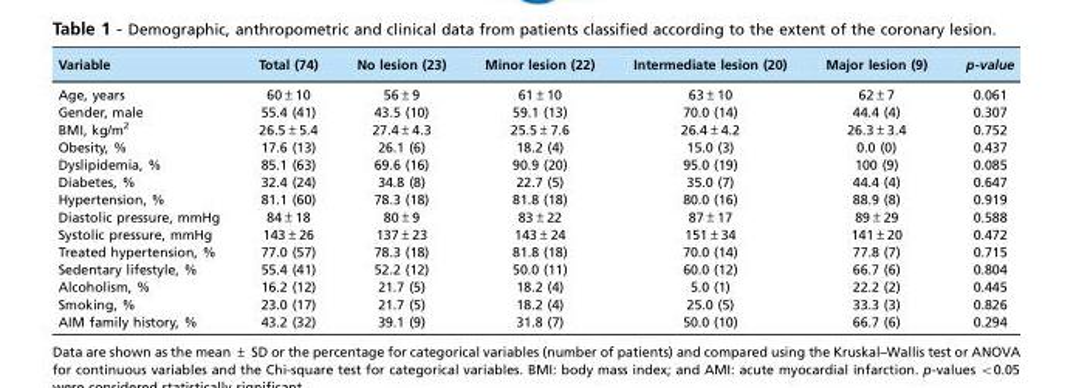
<table><thead><tr><td>Variable</td><td>Total (74)</td><td>No lesion (23)</td><td>Minor lesion (22)</td><td>Intermediate lesion (20)</td><td>Major lesion (9)</td><td>p-value</td></tr></thead><tbody><tr><td>Age, years</td><td>60±10</td><td>56±9</td><td>61±10</td><td>63±10</td><td>62±7</td><td>0.061</td></tr><tr><td>Gender, male</td><td>55.4 (41)</td><td>43.5 (10)</td><td>59.1 (13)</td><td>70.0 (14)</td><td>44.4 (4)</td><td>0.307</td></tr><tr><td>BMI, kg/m<sup>2</sup></td><td>26.5±5.4</td><td>27.4±4.3</td><td>25.5±7.6</td><td>26.4±4.2</td><td>26.3±3.4</td><td>0.752</td></tr><tr><td>Obesity, %</td><td>17.6 (13)</td><td>26.1 (6)</td><td>18.2 (4)</td><td>15.0 (3)</td><td>0.0 (0)</td><td>0.437</td></tr><tr><td>Dyslipidemia, %</td><td>85.1 (63)</td><td>69.6 (16)</td><td>90.9 (20)</td><td>95.0 (19)</td><td>100 (9)</td><td>0.085</td></tr><tr><td>Diabetes, %</td><td>32.4 (24)</td><td>34.8 (8)</td><td>22.7 (5)</td><td>35.0 (7)</td><td>44.4 (4)</td><td>0.647</td></tr><tr><td>Hypertension, %</td><td>81.1 (60)</td><td>78.3 (18)</td><td>81.8 (18)</td><td>80.0 (16)</td><td>88.9 (8)</td><td>0.919</td></tr><tr><td>Diastolic pressure, mmHg</td><td>84±18</td><td>80±9</td><td>83±22</td><td>87±17</td><td>89±29</td><td>0.588</td></tr><tr><td>Systolic pressure, mmHg</td><td>143±26</td><td>137±23</td><td>143±24</td><td>151±34</td><td>141±20</td><td>0.472</td></tr><tr><td>Treated hypertension, %</td><td>77.0 (57)</td><td>78.3 (18)</td><td>81.8 (18)</td><td>70.0 (14)</td><td>77.8 (7)</td><td>0.715</td></tr><tr><td>Sedentary lifestyle, %</td><td>55.4 (41)</td><td>52.2 (12)</td><td>50.0 (11)</td><td>60.0 (12)</td><td>66.7 (6)</td><td>0.804</td></tr><tr><td>Alcoholism, %</td><td>16.2 (12)</td><td>21.7 (5)</td><td>18.2 (4)</td><td>5.0 (1)</td><td>22.2 (2)</td><td>0.445</td></tr><tr><td>Smoking, %</td><td>23.0 (17)</td><td>21.7 (5)</td><td>18.2 (4)</td><td>25.0 (5)</td><td>33.3 (3)</td><td>0.826</td></tr><tr><td>AIM family history, %</td><td>43.2 (32)</td><td>39.1 (9)</td><td>31.8 (7)</td><td>50.0 (10)</td><td>66.7 (6)</td><td>0.294</td></tr></tbody></table>